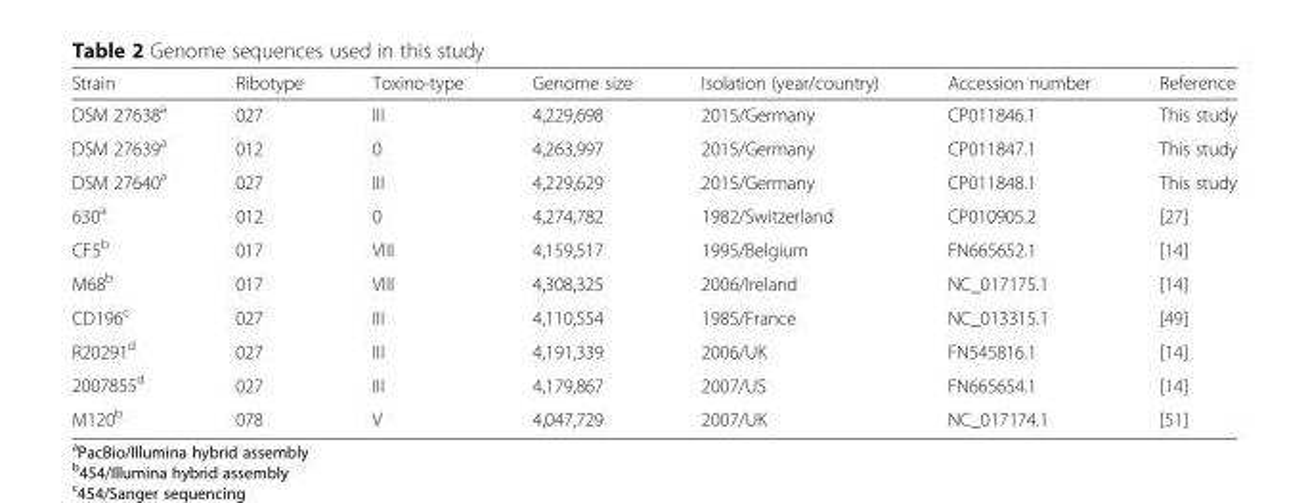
<table><thead><tr><td>Strain</td><td>Ribotype</td><td>Toxino-type</td><td>Genome size</td><td>Isolation (year/country)</td><td>Accession number</td><td>Reference</td></tr></thead><tbody><tr><td>DSM 27638<sup>a</sup></td><td>027</td><td>III</td><td>4,229,698</td><td>2015/Germany</td><td>CP011846.1</td><td>This study</td></tr><tr><td>DSM 27639<sup>a</sup></td><td>012</td><td>0</td><td>4,263,997</td><td>2015/Germany</td><td>CP011847.1</td><td>This study</td></tr><tr><td>DSM 27640<sup>a</sup></td><td>027</td><td>III</td><td>4,229,629</td><td>2015/Germany</td><td>CP011848.1</td><td>This study</td></tr><tr><td>630<sup>a</sup></td><td>012</td><td>0</td><td>4,274,782</td><td>1982/Switzerland</td><td>CP010905.2</td><td>[27]</td></tr><tr><td>CF5<sup>b</sup></td><td>017</td><td>VIII</td><td>4,159,517</td><td>1995/Belgium</td><td>FN665652.1</td><td>[14]</td></tr><tr><td>M68<sup>b</sup></td><td>017</td><td>VIII</td><td>4,308,325</td><td>2006/Ireland</td><td>NC_017175.1</td><td>[14]</td></tr><tr><td>CD196<sup>c</sup></td><td>027</td><td>III</td><td>4,110,554</td><td>1985/France</td><td>NC_013315.1</td><td>[49]</td></tr><tr><td>R20291<sup>d</sup></td><td>027</td><td>III</td><td>4,191,339</td><td>2006/UK</td><td>FN545816.1</td><td>[14]</td></tr><tr><td>2007855<sup>d</sup></td><td>027</td><td>III</td><td>4,179,867</td><td>2007/US</td><td>FN665654.1</td><td>[14]</td></tr><tr><td>M120<sup>b</sup></td><td>078</td><td>V</td><td>4,047,729</td><td>2007/UK</td><td>NC_017174.1</td><td>[51]</td></tr></tbody></table>